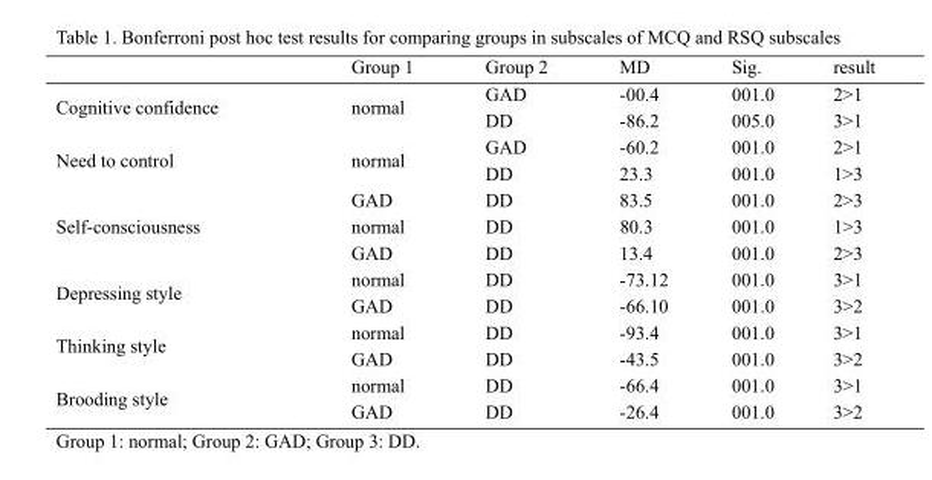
<table><thead><tr><td></td><td>Group 1</td><td>Group 2</td><td>MD</td><td>Sig.</td><td>result</td></tr></thead><tbody><tr><td rowspan="2">Cognitive confidence</td><td rowspan="2">normal</td><td>GAD</td><td>00.4 -</td><td>001.0</td><td>1 &gt; 2</td></tr><tr><td>DD</td><td>86.2 -</td><td>005.0</td><td>1 &gt; 3</td></tr><tr><td rowspan="2">Need to control</td><td rowspan="2">normal</td><td>GAD</td><td>60.2 -</td><td>001.0</td><td>1 &gt; 2</td></tr><tr><td>DD</td><td>23.3</td><td>001.0</td><td>3 &gt; 1</td></tr><tr><td rowspan="3">Self-consciousness</td><td>GAD</td><td>DD</td><td>83.5</td><td>001.0</td><td>3 &gt; 2</td></tr><tr><td>normal</td><td>DD</td><td>80.3</td><td>001.0</td><td>3 &gt; 1</td></tr><tr><td>GAD</td><td>DD</td><td>13.4</td><td>001.0</td><td>3 &gt; 2</td></tr><tr><td rowspan="2">Depressing style</td><td>normal</td><td>DD</td><td>73.12 -</td><td>001.0</td><td>1 &gt; 3</td></tr><tr><td>GAD</td><td>DD</td><td>66.10 -</td><td>001.0</td><td>2 &gt; 3</td></tr><tr><td rowspan="2">Thinking style</td><td>normal</td><td>DD</td><td>93.4 -</td><td>001.0</td><td>1 &gt; 3</td></tr><tr><td>GAD</td><td>DD</td><td>43.5 -</td><td>001.0</td><td>2 &gt; 3</td></tr><tr><td rowspan="2">Brooding style</td><td>normal</td><td>DD</td><td>66.4 -</td><td>001.0</td><td>1 &gt; 3</td></tr><tr><td>GAD</td><td>DD</td><td>26.4 -</td><td>001.0</td><td>2 &gt; 3</td></tr></tbody></table>